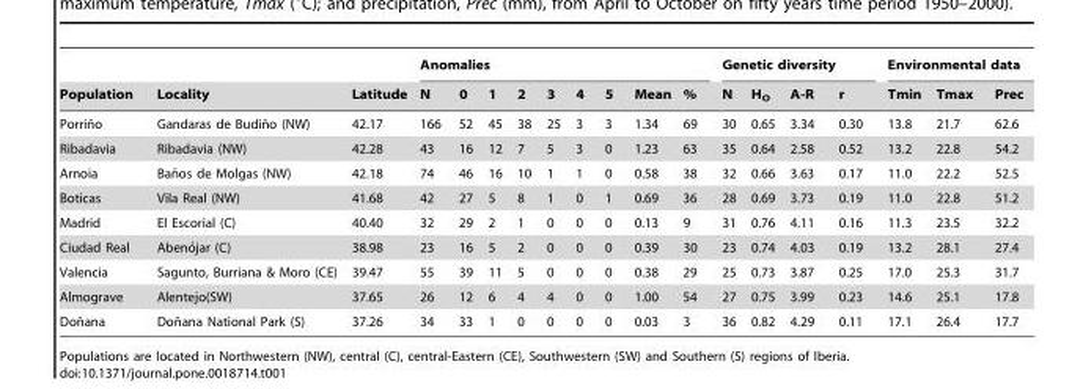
<table><thead><tr><td rowspan="2">Population</td><td rowspan="2">Locality</td><td rowspan="2">Latitude</td><td colspan="9">Anomalies</td><td colspan="4">Genetic diversity</td><td colspan="3">Environmental data</td></tr><tr><td>N</td><td>0</td><td>1</td><td>2</td><td>3</td><td>4</td><td>5</td><td>Mean</td><td>%</td><td>N</td><td>H<sub>O</sub></td><td>A-R</td><td>r</td><td>Tmin</td><td>Tmax</td><td>Prec</td></tr></thead><tbody><tr><td>Porrin˜o</td><td>Gandaras de Budin˜o (NW)</td><td>42.17</td><td>166</td><td>52</td><td>45</td><td>38</td><td>25</td><td>3</td><td>3</td><td>1.34</td><td>69</td><td>30</td><td>0.65</td><td>3.34</td><td>0.30</td><td>13.8</td><td>21.7</td><td>62.6</td></tr><tr><td>Ribadavia</td><td>Ribadavia (NW)</td><td>42.28</td><td>43</td><td>16</td><td>12</td><td>7</td><td>5</td><td>3</td><td>0</td><td>1.23</td><td>63</td><td>35</td><td>0.64</td><td>2.58</td><td>0.52</td><td>13.2</td><td>22.8</td><td>54.2</td></tr><tr><td>Arnoia</td><td>Ban˜os de Molgas (NW)</td><td>42.18</td><td>74</td><td>46</td><td>16</td><td>10</td><td>1</td><td>1</td><td>0</td><td>0.58</td><td>38</td><td>32</td><td>0.66</td><td>3.63</td><td>0.17</td><td>11.0</td><td>22.2</td><td>52.5</td></tr><tr><td>Boticas</td><td>Vila Real (NW)</td><td>41.68</td><td>42</td><td>27</td><td>5</td><td>8</td><td>1</td><td>0</td><td>1</td><td>0.69</td><td>36</td><td>28</td><td>0.69</td><td>3.73</td><td>0.19</td><td>11.0</td><td>22.8</td><td>51.2</td></tr><tr><td>Madrid</td><td>El Escorial (C)</td><td>40.40</td><td>32</td><td>29</td><td>2</td><td>1</td><td>0</td><td>0</td><td>0</td><td>0.13</td><td>9</td><td>31</td><td>0.76</td><td>4.11</td><td>0.16</td><td>11.3</td><td>23.5</td><td>32.2</td></tr><tr><td>Ciudad Real</td><td>Abeno´jar (C)</td><td>38.98</td><td>23</td><td>16</td><td>5</td><td>2</td><td>0</td><td>0</td><td>0</td><td>0.39</td><td>30</td><td>23</td><td>0.74</td><td>4.03</td><td>0.19</td><td>13.2</td><td>28.1</td><td>27.4</td></tr><tr><td>Valencia</td><td>Sagunto, Burriana &amp; Moro (CE)</td><td>39.47</td><td>55</td><td>39</td><td>11</td><td>5</td><td>0</td><td>0</td><td>0</td><td>0.38</td><td>29</td><td>25</td><td>0.73</td><td>3.87</td><td>0.25</td><td>17.0</td><td>25.3</td><td>31.7</td></tr><tr><td>Almograve</td><td>Alentejo(SW)</td><td>37.65</td><td>26</td><td>12</td><td>6</td><td>4</td><td>4</td><td>0</td><td>0</td><td>1.00</td><td>54</td><td>27</td><td>0.75</td><td>3.99</td><td>0.23</td><td>14.6</td><td>25.1</td><td>17.8</td></tr><tr><td>Don˜ana</td><td>Don˜ana National Park (S)</td><td>37.26</td><td>34</td><td>33</td><td>1</td><td>0</td><td>0</td><td>0</td><td>0</td><td>0.03</td><td>3</td><td>36</td><td>0.82</td><td>4.29</td><td>0.11</td><td>17.1</td><td>26.4</td><td>17.7</td></tr></tbody></table>